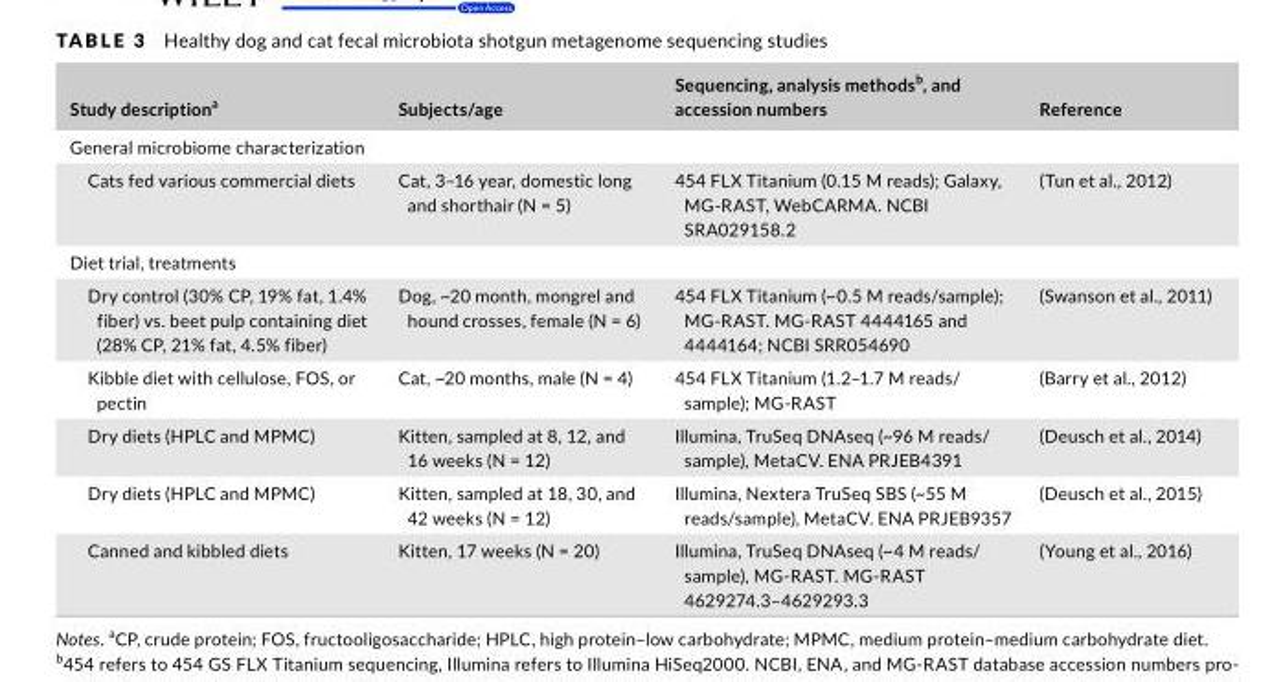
<table><thead><tr><td>Study description<sup>a</sup></td><td>Subjects/age</td><td>Sequencing, analysis methods<sup>b</sup>, and accession numbers</td><td>Reference</td></tr></thead><tbody><tr><td colspan="4">General microbiome characterization</td></tr><tr><td>Cats fed various commercial diets</td><td>Cat, 3–16 year, domestic long and shorthair (N = 5)</td><td>454 FLX Titanium (0.15 M reads); Galaxy, MG- RAST, WebCARMA. NCBI SRA029158.2</td><td>(Tun et al., 2012)</td></tr><tr><td colspan="4">Diet trial, treatments</td></tr><tr><td>Dry control (30% CP, 19% fat, 1.4% fiber) vs. beet pulp containing diet (28% CP, 21% fat, 4.5% fiber)</td><td>Dog, ~20 month, mongrel and hound crosses, female (N = 6)</td><td>454 FLX Titanium (~0.5 M reads/sample); MG- RAST. MG- RAST 4444165 and 4444164; NCBI SRR054690</td><td>(Swanson et al., 2011)</td></tr><tr><td>Kibble diet with cellulose, FOS, or pectin</td><td>Cat, ~20 months, male (N = 4)</td><td>454 FLX Titanium (1.2–1.7 M reads/ sample); MG- RAST</td><td>(Barry et al., 2012)</td></tr><tr><td>Dry diets (HPLC and MPMC)</td><td>Kitten, sampled at 8, 12, and 16 weeks (N = 12)</td><td>Illumina, TruSeq DNAseq (~96 M reads/ sample), MetaCV. ENA PRJEB4391</td><td>(Deusch et al., 2014)</td></tr><tr><td>Dry diets (HPLC and MPMC)</td><td>Kitten, sampled at 18, 30, and 42 weeks (N = 12)</td><td>Illumina, Nextera TruSeq SBS (~55 M reads/sample), MetaCV. ENA PRJEB9357</td><td>(Deusch et al., 2015)</td></tr><tr><td>Canned and kibbled diets</td><td>Kitten, 17 weeks (N = 20)</td><td>Illumina, TruSeq DNAseq (~4 M reads/ sample), MG- RAST. MG- RAST 4629274.3–4629293.3</td><td>(Young et al., 2016)</td></tr></tbody></table>